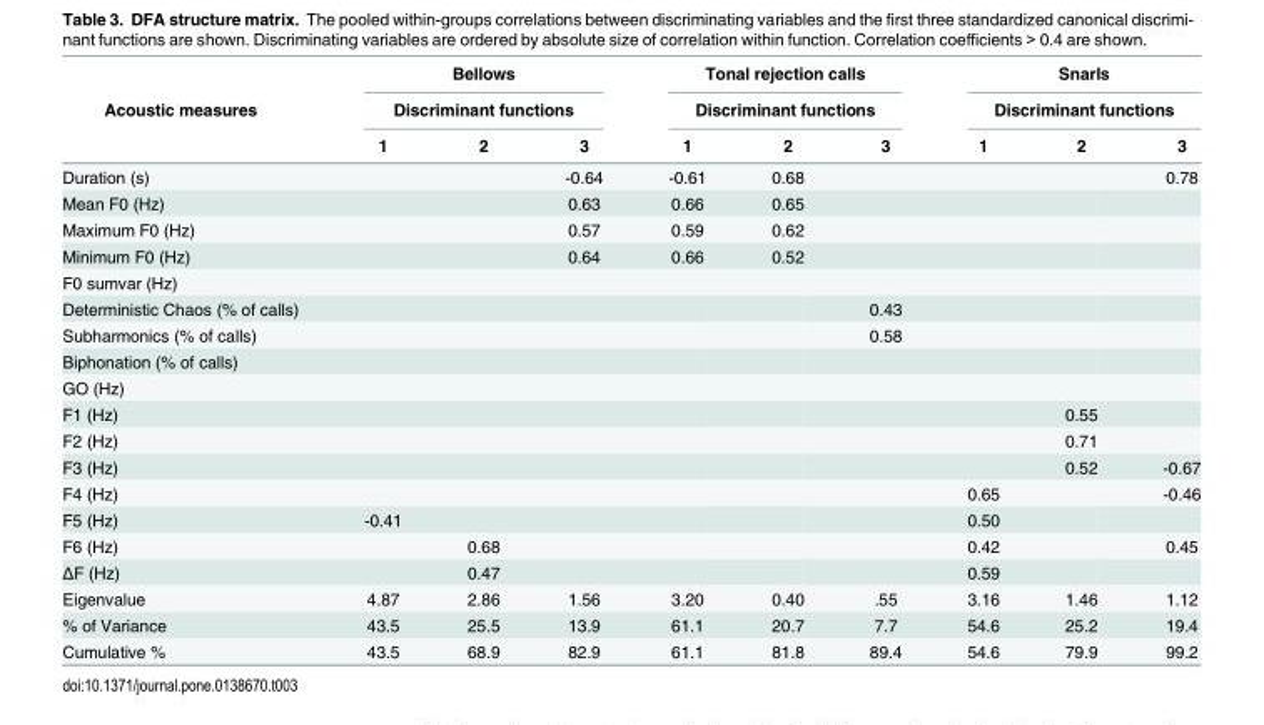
<table><thead><tr><td rowspan="3">Acoustic measures</td><td rowspan="2" colspan="3">Bellows Discriminant functions</td><td rowspan="2" colspan="3">Tonal rejection calls Discriminant functions</td><td rowspan="2" colspan="3">Snarls Discriminant functions</td></tr><tr></tr><tr><td>1</td><td>2</td><td>3</td><td>1</td><td>2</td><td>3</td><td>1</td><td>2</td><td>3</td></tr></thead><tbody><tr><td>Duration (s)</td><td></td><td></td><td>-0.64</td><td>-0.61</td><td>0.68</td><td></td><td></td><td></td><td>0.78</td></tr><tr><td>Mean F0 (Hz)</td><td></td><td></td><td>0.63</td><td>0.66</td><td>0.65</td><td></td><td></td><td></td><td></td></tr><tr><td>Maximum F0 (Hz)</td><td></td><td></td><td>0.57</td><td>0.59</td><td>0.62</td><td></td><td></td><td></td><td></td></tr><tr><td>Minimum F0 (Hz)</td><td></td><td></td><td>0.64</td><td>0.66</td><td>0.52</td><td></td><td></td><td></td><td></td></tr><tr><td colspan="10">F0 sumvar (Hz)</td></tr><tr><td>Deterministic Chaos (% of calls)</td><td></td><td></td><td></td><td></td><td></td><td>0.43</td><td></td><td></td><td></td></tr><tr><td>Subharmonics (% of calls)</td><td></td><td></td><td></td><td></td><td></td><td>0.58</td><td></td><td></td><td></td></tr><tr><td colspan="10">Biphonation (% of calls)</td></tr><tr><td colspan="10">GO (Hz)</td></tr><tr><td>F1 (Hz)</td><td></td><td></td><td></td><td></td><td></td><td></td><td></td><td>0.55</td><td></td></tr><tr><td>F2 (Hz)</td><td></td><td></td><td></td><td></td><td></td><td></td><td></td><td>0.71</td><td></td></tr><tr><td>F3 (Hz)</td><td></td><td></td><td></td><td></td><td></td><td></td><td></td><td>0.52</td><td>-0.67</td></tr><tr><td>F4 (Hz)</td><td></td><td></td><td></td><td></td><td></td><td></td><td>0.65</td><td></td><td>-0.46</td></tr><tr><td>F5 (Hz)</td><td>-0.41</td><td></td><td></td><td></td><td></td><td></td><td>0.50</td><td></td><td></td></tr><tr><td>F6 (Hz)</td><td></td><td>0.68</td><td></td><td></td><td></td><td></td><td>0.42</td><td></td><td>0.45</td></tr><tr><td>ΔF (Hz)</td><td></td><td>0.47</td><td></td><td></td><td></td><td></td><td>0.59</td><td></td><td></td></tr><tr><td>Eigenvalue</td><td>4.87</td><td>2.86</td><td>1.56</td><td>3.20</td><td>0.40</td><td>.55</td><td>3.16</td><td>1.46</td><td>1.12</td></tr><tr><td>% of Variance</td><td>43.5</td><td>25.5</td><td>13.9</td><td>61.1</td><td>20.7</td><td>7.7</td><td>54.6</td><td>25.2</td><td>19.4</td></tr><tr><td>Cumulative %</td><td>43.5</td><td>68.9</td><td>82.9</td><td>61.1</td><td>81.8</td><td>89.4</td><td>54.6</td><td>79.9</td><td>99.2</td></tr></tbody></table>